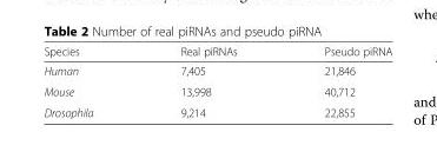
<table><thead><tr><td>Species</td><td>Real piRNAs</td><td>Pseudo piRNA</td></tr></thead><tbody><tr><td>Human</td><td>7,405</td><td>21,846</td></tr><tr><td>Mouse</td><td>13,998</td><td>40,712</td></tr><tr><td>Drosophila</td><td>9,214</td><td>22,855</td></tr></tbody></table>